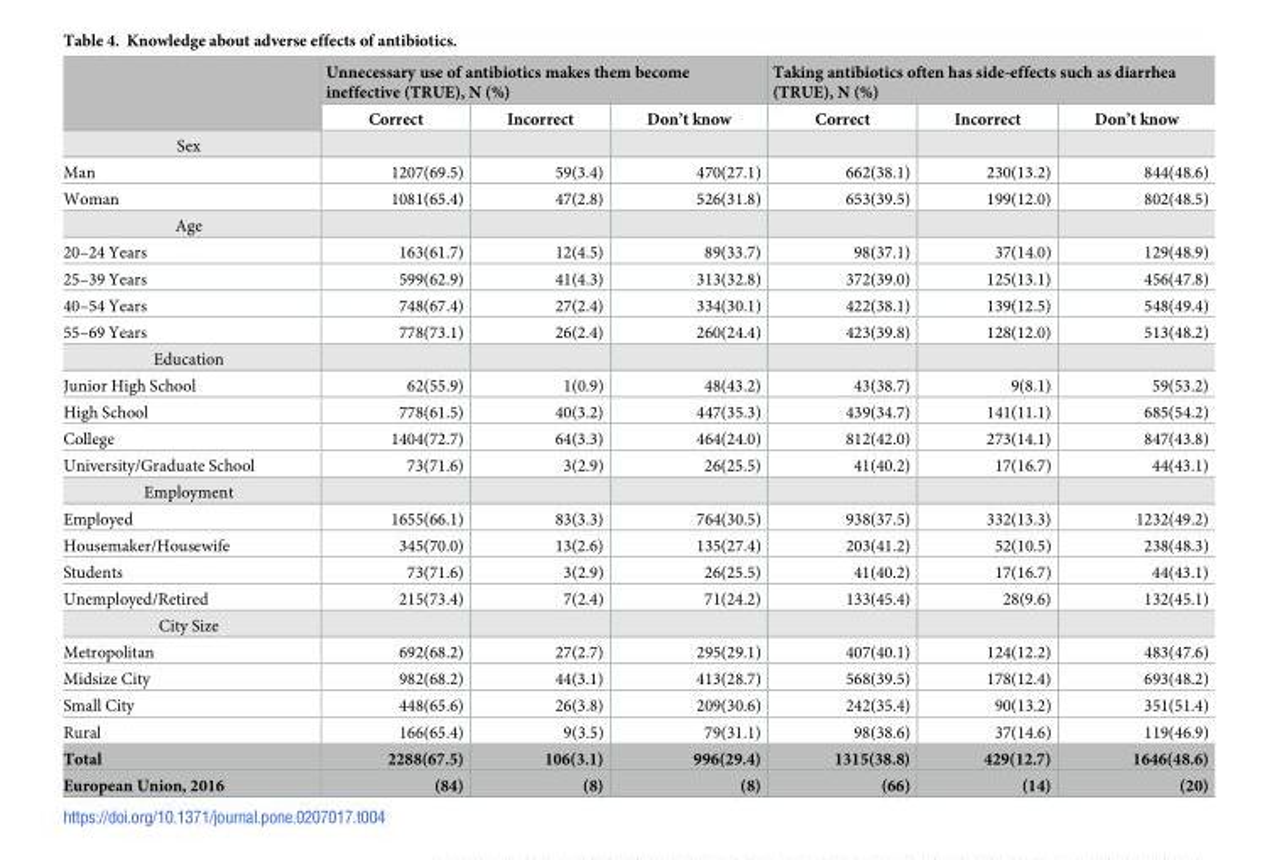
<table><thead><tr><td rowspan="2"></td><td colspan="3">Unnecessary use of antibiotics makes them become ineffective (TRUE), N (%)</td><td colspan="3">Taking antibiotics often has side-effects such as diarrhea (TRUE), N (%)</td></tr><tr><td>Correct</td><td>Incorrect</td><td>Don’t know</td><td>Correct</td><td>Incorrect</td><td>Don’t know</td></tr></thead><tbody><tr><td colspan="7">Sex</td></tr><tr><td>Man</td><td>1207(69.5)</td><td>59(3.4)</td><td>470(27.1)</td><td>662(38.1)</td><td>230(13.2)</td><td>844(48.6)</td></tr><tr><td>Woman</td><td>1081(65.4)</td><td>47(2.8)</td><td>526(31.8)</td><td>653(39.5)</td><td>199(12.0)</td><td>802(48.5)</td></tr><tr><td colspan="7">Age</td></tr><tr><td>20–24 Years</td><td>163(61.7)</td><td>12(4.5)</td><td>89(33.7)</td><td>98(37.1)</td><td>37(14.0)</td><td>129(48.9)</td></tr><tr><td>25–39 Years</td><td>599(62.9)</td><td>41(4.3)</td><td>313(32.8)</td><td>372(39.0)</td><td>125(13.1)</td><td>456(47.8)</td></tr><tr><td>40–54 Years</td><td>748(67.4)</td><td>27(2.4)</td><td>334(30.1)</td><td>422(38.1)</td><td>139(12.5)</td><td>548(49.4)</td></tr><tr><td>55–69 Years</td><td>778(73.1)</td><td>26(2.4)</td><td>260(24.4)</td><td>423(39.8)</td><td>128(12.0)</td><td>513(48.2)</td></tr><tr><td colspan="7">Education</td></tr><tr><td>Junior High School</td><td>62(55.9)</td><td>1(0.9)</td><td>48(43.2)</td><td>43(38.7)</td><td>9(8.1)</td><td>59(53.2)</td></tr><tr><td>High School</td><td>778(61.5)</td><td>40(3.2)</td><td>447(35.3)</td><td>439(34.7)</td><td>141(11.1)</td><td>685(54.2)</td></tr><tr><td>College</td><td>1404(72.7)</td><td>64(3.3)</td><td>464(24.0)</td><td>812(42.0)</td><td>273(14.1)</td><td>847(43.8)</td></tr><tr><td>University/Graduate School</td><td>73(71.6)</td><td>3(2.9)</td><td>26(25.5)</td><td>41(40.2)</td><td>17(16.7)</td><td>44(43.1)</td></tr><tr><td colspan="7">Employment</td></tr><tr><td>Employed</td><td>1655(66.1)</td><td>83(3.3)</td><td>764(30.5)</td><td>938(37.5)</td><td>332(13.3)</td><td>1232(49.2)</td></tr><tr><td>Housemaker/Housewife</td><td>345(70.0)</td><td>13(2.6)</td><td>135(27.4)</td><td>203(41.2)</td><td>52(10.5)</td><td>238(48.3)</td></tr><tr><td>Students</td><td>73(71.6)</td><td>3(2.9)</td><td>26(25.5)</td><td>41(40.2)</td><td>17(16.7)</td><td>44(43.1)</td></tr><tr><td>Unemployed/Retired</td><td>215(73.4)</td><td>7(2.4)</td><td>71(24.2)</td><td>133(45.4)</td><td>28(9.6)</td><td>132(45.1)</td></tr><tr><td colspan="7">City Size</td></tr><tr><td>Metropolitan</td><td>692(68.2)</td><td>27(2.7)</td><td>295(29.1)</td><td>407(40.1)</td><td>124(12.2)</td><td>483(47.6)</td></tr><tr><td>Midsize City</td><td>982(68.2)</td><td>44(3.1)</td><td>413(28.7)</td><td>568(39.5)</td><td>178(12.4)</td><td>693(48.2)</td></tr><tr><td>Small City</td><td>448(65.6)</td><td>26(3.8)</td><td>209(30.6)</td><td>242(35.4)</td><td>90(13.2)</td><td>351(51.4)</td></tr><tr><td>Rural</td><td>166(65.4)</td><td>9(3.5)</td><td>79(31.1)</td><td>98(38.6)</td><td>37(14.6)</td><td>119(46.9)</td></tr><tr><td>Total</td><td>2288(67.5)</td><td>106(3.1)</td><td>996(29.4)</td><td>1315(38.8)</td><td>429(12.7)</td><td>1646(48.6)</td></tr><tr><td>European Union, 2016</td><td>(84)</td><td>(8)</td><td>(8)</td><td>(66)</td><td>(14)</td><td>(20)</td></tr></tbody></table>